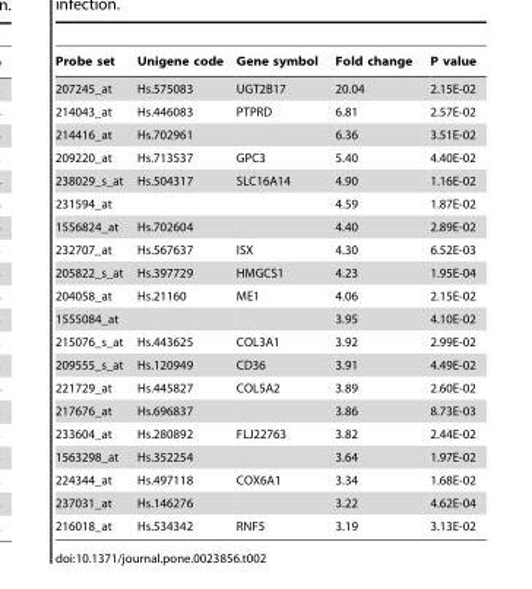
<table><thead><tr><td>Probe set</td><td>Unigene code</td><td>Gene symbol</td><td>Fold change</td><td>P value</td></tr></thead><tbody><tr><td>207245_at</td><td>Hs.575083</td><td>UGT2B17</td><td>20.04</td><td>2.15E-02</td></tr><tr><td>214043_at</td><td>Hs.446083</td><td>PTPRD</td><td>6.81</td><td>2.57E-02</td></tr><tr><td>214416_at</td><td>Hs.702961</td><td></td><td>6.36</td><td>3.51E-02</td></tr><tr><td>209220_at</td><td>Hs.713537</td><td>GPC3</td><td>5.40</td><td>4.40E-02</td></tr><tr><td>238029_s_at</td><td>Hs.504317</td><td>SLC16A14</td><td>4.90</td><td>1.16E-02</td></tr><tr><td>231594_at</td><td></td><td></td><td>4.59</td><td>1.87E-02</td></tr><tr><td>1556824_at</td><td>Hs.702604</td><td></td><td>4.40</td><td>2.89E-02</td></tr><tr><td>232707_at</td><td>Hs.567637</td><td>ISX</td><td>4.30</td><td>6.52E-03</td></tr><tr><td>205822_s_at</td><td>Hs.397729</td><td>HMGCS1</td><td>4.23</td><td>1.95E-04</td></tr><tr><td>204058_at</td><td>Hs.21160</td><td>ME1</td><td>4.06</td><td>2.15E-02</td></tr><tr><td>1555084_at</td><td></td><td></td><td>3.95</td><td>4.10E-02</td></tr><tr><td>215076_s_at</td><td>Hs.443625</td><td>COL3A1</td><td>3.92</td><td>2.99E-02</td></tr><tr><td>209555_s_at</td><td>Hs.120949</td><td>CD36</td><td>3.91</td><td>4.49E-02</td></tr><tr><td>221729_at</td><td>Hs.445827</td><td>COL5A2</td><td>3.89</td><td>2.60E-02</td></tr><tr><td>217676_at</td><td>Hs.696837</td><td></td><td>3.86</td><td>8.73E-03</td></tr><tr><td>233604_at</td><td>Hs.280892</td><td>FLJ22763</td><td>3.82</td><td>2.44E-02</td></tr><tr><td>1563298_at</td><td>Hs.352254</td><td></td><td>3.64</td><td>1.97E-02</td></tr><tr><td>224344_at</td><td>Hs.497118</td><td>COX6A1</td><td>3.34</td><td>1.68E-02</td></tr><tr><td>237031_at</td><td>Hs.146276</td><td></td><td>3.22</td><td>4.62E-04</td></tr><tr><td>216018_at</td><td>Hs.534342</td><td>RNF5</td><td>3.19</td><td>3.13E-02</td></tr></tbody></table>